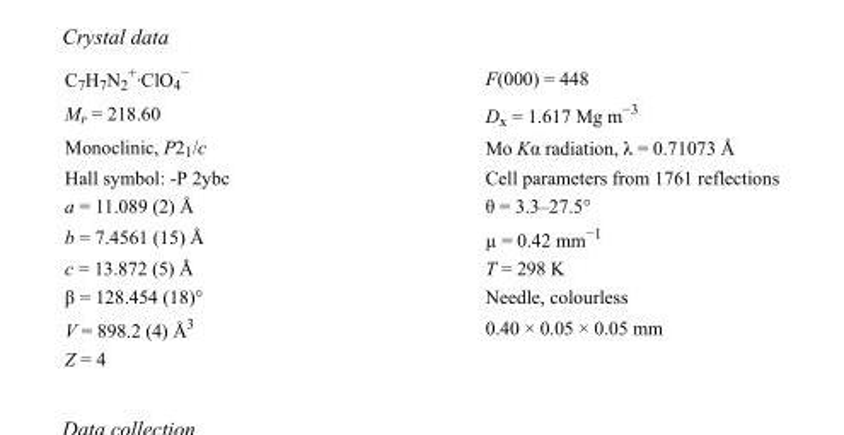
<table><tbody><tr><td>C<sub>7</sub>H<sub>7</sub>N<sub>2</sub> <sup>+</sup>·ClO<sub>4</sub> <sup>−</sup></td><td>F(000) = 448</td></tr><tr><td>M<sub>r</sub> = 218.60</td><td>D<sub>x</sub> = 1.617 Mg m<sup>−3</sup></td></tr><tr><td>Monoclinic, P2<sub>1</sub>/c</td><td>Mo Kα radiation, λ = 0.71073 Å</td></tr><tr><td>Hall symbol: -P 2ybc</td><td>Cell parameters from 1761 reflections</td></tr><tr><td>a = 11.089 (2) Å</td><td>θ = 3.3–27.5°</td></tr><tr><td>b = 7.4561 (15) Å</td><td>µ = 0.42 mm<sup>−1</sup></td></tr><tr><td>c = 13.872 (5) Å</td><td>T = 298 K</td></tr><tr><td>β = 128.454 (18)°</td><td>Needle, colourless</td></tr><tr><td>V = 898.2 (4) Å<sup>3</sup></td><td>0.40 × 0.05 × 0.05 mm</td></tr><tr><td>Z = 4</td><td></td></tr></tbody></table>